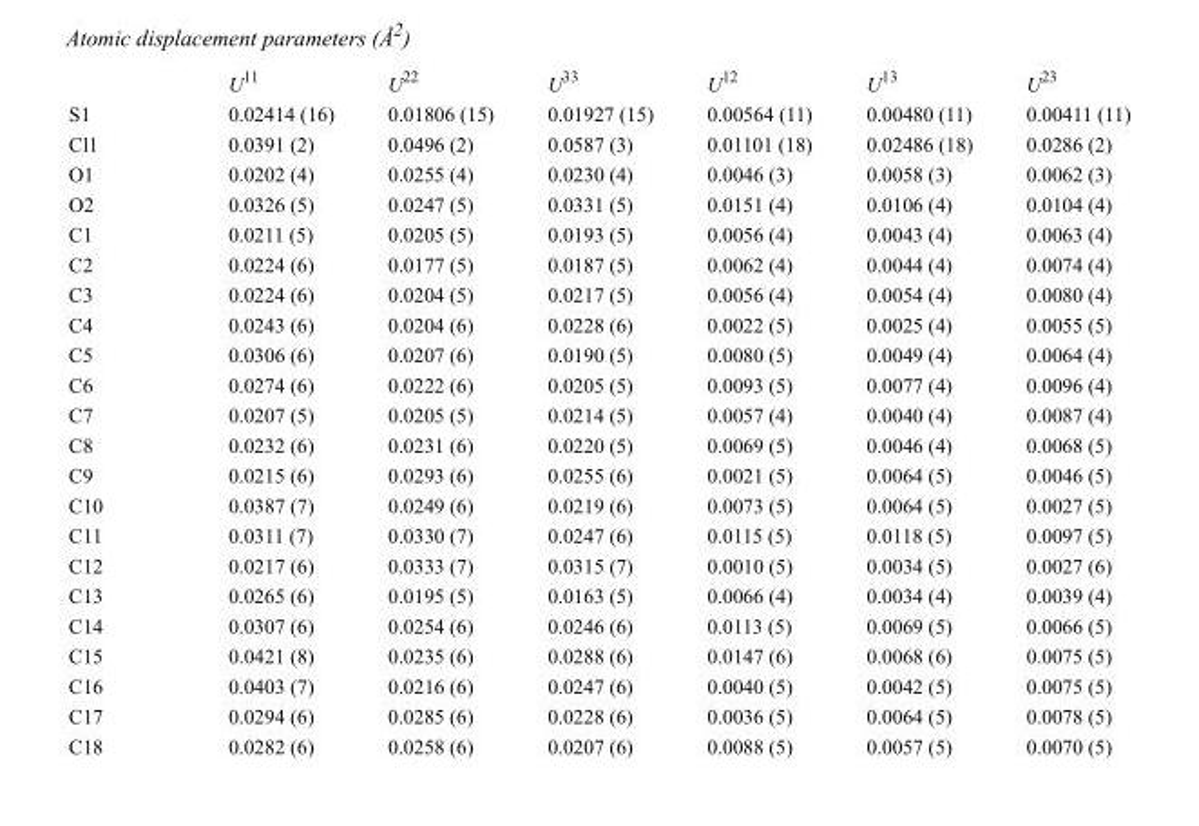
<table><thead><tr><td></td><td>U<sup>11</sup></td><td>U<sup>22</sup></td><td>U<sup>33</sup></td><td>U<sup>12</sup></td><td>U<sup>13</sup></td><td>U<sup>23</sup></td></tr></thead><tbody><tr><td>S1</td><td>0.02414 (16)</td><td>0.01806 (15)</td><td>0.01927 (15)</td><td>0.00564 (11)</td><td>0.00480 (11)</td><td>0.00411 (11)</td></tr><tr><td>Cl1</td><td>0.0391 (2)</td><td>0.0496 (2)</td><td>0.0587 (3)</td><td>0.01101 (18)</td><td>0.02486 (18)</td><td>0.0286 (2)</td></tr><tr><td>O1</td><td>0.0202 (4)</td><td>0.0255 (4)</td><td>0.0230 (4)</td><td>0.0046 (3)</td><td>0.0058 (3)</td><td>0.0062 (3)</td></tr><tr><td>O2</td><td>0.0326 (5)</td><td>0.0247 (5)</td><td>0.0331 (5)</td><td>0.0151 (4)</td><td>0.0106 (4)</td><td>0.0104 (4)</td></tr><tr><td>C1</td><td>0.0211 (5)</td><td>0.0205 (5)</td><td>0.0193 (5)</td><td>0.0056 (4)</td><td>0.0043 (4)</td><td>0.0063 (4)</td></tr><tr><td>C2</td><td>0.0224 (6)</td><td>0.0177 (5)</td><td>0.0187 (5)</td><td>0.0062 (4)</td><td>0.0044 (4)</td><td>0.0074 (4)</td></tr><tr><td>C3</td><td>0.0224 (6)</td><td>0.0204 (5)</td><td>0.0217 (5)</td><td>0.0056 (4)</td><td>0.0054 (4)</td><td>0.0080 (4)</td></tr><tr><td>C4</td><td>0.0243 (6)</td><td>0.0204 (6)</td><td>0.0228 (6)</td><td>0.0022 (5)</td><td>0.0025 (4)</td><td>0.0055 (5)</td></tr><tr><td>C5</td><td>0.0306 (6)</td><td>0.0207 (6)</td><td>0.0190 (5)</td><td>0.0080 (5)</td><td>0.0049 (4)</td><td>0.0064 (4)</td></tr><tr><td>C6</td><td>0.0274 (6)</td><td>0.0222 (6)</td><td>0.0205 (5)</td><td>0.0093 (5)</td><td>0.0077 (4)</td><td>0.0096 (4)</td></tr><tr><td>C7</td><td>0.0207 (5)</td><td>0.0205 (5)</td><td>0.0214 (5)</td><td>0.0057 (4)</td><td>0.0040 (4)</td><td>0.0087 (4)</td></tr><tr><td>C8</td><td>0.0232 (6)</td><td>0.0231 (6)</td><td>0.0220 (5)</td><td>0.0069 (5)</td><td>0.0046 (4)</td><td>0.0068 (5)</td></tr><tr><td>C9</td><td>0.0215 (6)</td><td>0.0293 (6)</td><td>0.0255 (6)</td><td>0.0021 (5)</td><td>0.0064 (5)</td><td>0.0046 (5)</td></tr><tr><td>C10</td><td>0.0387 (7)</td><td>0.0249 (6)</td><td>0.0219 (6)</td><td>0.0073 (5)</td><td>0.0064 (5)</td><td>0.0027 (5)</td></tr><tr><td>C11</td><td>0.0311 (7)</td><td>0.0330 (7)</td><td>0.0247 (6)</td><td>0.0115 (5)</td><td>0.0118 (5)</td><td>0.0097 (5)</td></tr><tr><td>C12</td><td>0.0217 (6)</td><td>0.0333 (7)</td><td>0.0315 (7)</td><td>0.0010 (5)</td><td>0.0034 (5)</td><td>0.0027 (6)</td></tr><tr><td>C13</td><td>0.0265 (6)</td><td>0.0195 (5)</td><td>0.0163 (5)</td><td>0.0066 (4)</td><td>0.0034 (4)</td><td>0.0039 (4)</td></tr><tr><td>C14</td><td>0.0307 (6)</td><td>0.0254 (6)</td><td>0.0246 (6)</td><td>0.0113 (5)</td><td>0.0069 (5)</td><td>0.0066 (5)</td></tr><tr><td>C15</td><td>0.0421 (8)</td><td>0.0235 (6)</td><td>0.0288 (6)</td><td>0.0147 (6)</td><td>0.0068 (6)</td><td>0.0075 (5)</td></tr><tr><td>C16</td><td>0.0403 (7)</td><td>0.0216 (6)</td><td>0.0247 (6)</td><td>0.0040 (5)</td><td>0.0042 (5)</td><td>0.0075 (5)</td></tr><tr><td>C17</td><td>0.0294 (6)</td><td>0.0285 (6)</td><td>0.0228 (6)</td><td>0.0036 (5)</td><td>0.0064 (5)</td><td>0.0078 (5)</td></tr><tr><td>C18</td><td>0.0282 (6)</td><td>0.0258 (6)</td><td>0.0207 (6)</td><td>0.0088 (5)</td><td>0.0057 (5)</td><td>0.0070 (5)</td></tr></tbody></table>